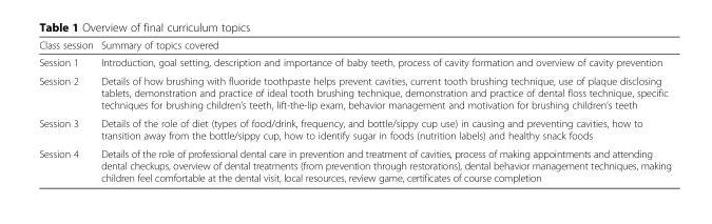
<table><thead><tr><td>Class session</td><td>Summary of topics covered</td></tr></thead><tbody><tr><td>Session 1</td><td>Introduction, goal setting, description and importance of baby teeth, process of cavity formation and overview of cavity prevention</td></tr><tr><td>Session 2</td><td>Details of how brushing with fluoride toothpaste helps prevent cavities, current tooth brushing technique, use of plaque disclosing tablets, demonstration and practice of ideal tooth brushing technique, demonstration and practice of dental floss technique, specific techniques for brushing children’s teeth, lift-the-lip exam, behavior management and motivation for brushing children’s teeth</td></tr><tr><td>Session 3</td><td>Details of the role of diet (types of food/drink, frequency, and bottle/sippy cup use) in causing and preventing cavities, how to transition away from the bottle/sippy cup, how to identify sugar in foods (nutrition labels) and healthy snack foods</td></tr><tr><td>Session 4</td><td>Details of the role of professional dental care in prevention and treatment of cavities, process of making appointments and attending dental checkups, overview of dental treatments (from prevention through restorations), dental behavior management techniques, making children feel comfortable at the dental visit, local resources, review game, certificates of course completion</td></tr></tbody></table>